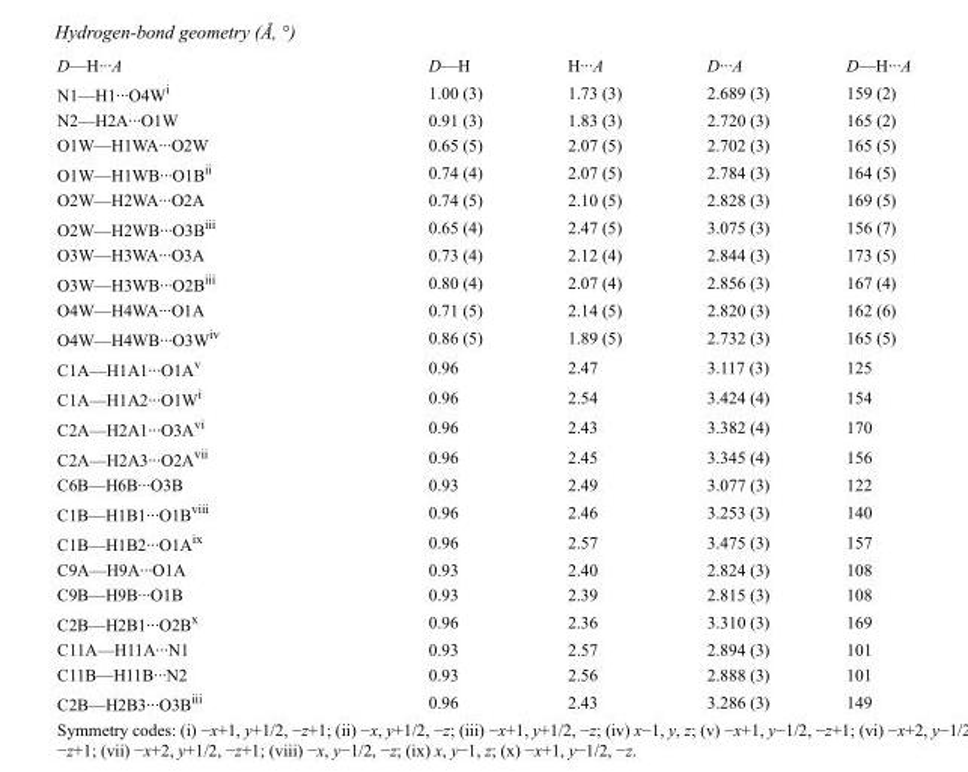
<table><tbody><tr><td>D—H···A</td><td>D—H</td><td>H···A</td><td>D···A</td><td>D—H···A</td></tr><tr><td>N1—H1···O4W<sup>i</sup></td><td>1.00 (3)</td><td>1.73 (3)</td><td>2.689 (3)</td><td>159 (2)</td></tr><tr><td>N2—H2A···O1W</td><td>0.91 (3)</td><td>1.83 (3)</td><td>2.720 (3)</td><td>165 (2)</td></tr><tr><td>O1W—H1WA···O2W</td><td>0.65 (5)</td><td>2.07 (5)</td><td>2.702 (3)</td><td>165 (5)</td></tr><tr><td>O1W—H1WB···O1B<sup>ii</sup></td><td>0.74 (4)</td><td>2.07 (5)</td><td>2.784 (3)</td><td>164 (5)</td></tr><tr><td>O2W—H2WA···O2A</td><td>0.74 (5)</td><td>2.10 (5)</td><td>2.828 (3)</td><td>169 (5)</td></tr><tr><td>O2W—H2WB···O3B<sup>iii</sup></td><td>0.65 (4)</td><td>2.47 (5)</td><td>3.075 (3)</td><td>156 (7)</td></tr><tr><td>O3W—H3WA···O3A</td><td>0.73 (4)</td><td>2.12 (4)</td><td>2.844 (3)</td><td>173 (5)</td></tr><tr><td>O3W—H3WB···O2B<sup>iii</sup></td><td>0.80 (4)</td><td>2.07 (4)</td><td>2.856 (3)</td><td>167 (4)</td></tr><tr><td>O4W—H4WA···O1A</td><td>0.71 (5)</td><td>2.14 (5)</td><td>2.820 (3)</td><td>162 (6)</td></tr><tr><td>O4W—H4WB···O3W<sup>iv</sup></td><td>0.86 (5)</td><td>1.89 (5)</td><td>2.732 (3)</td><td>165 (5)</td></tr><tr><td>C1A—H1A1···O1A<sup>v</sup></td><td>0.96</td><td>2.47</td><td>3.117 (3)</td><td>125</td></tr><tr><td>C1A—H1A2···O1W<sup>i</sup></td><td>0.96</td><td>2.54</td><td>3.424 (4)</td><td>154</td></tr><tr><td>C2A—H2A1···O3A<sup>vi</sup></td><td>0.96</td><td>2.43</td><td>3.382 (4)</td><td>170</td></tr><tr><td>C2A—H2A3···O2A<sup>vii</sup></td><td>0.96</td><td>2.45</td><td>3.345 (4)</td><td>156</td></tr><tr><td>C6B—H6B···O3B</td><td>0.93</td><td>2.49</td><td>3.077 (3)</td><td>122</td></tr><tr><td>C1B—H1B1···O1B<sup>viii</sup></td><td>0.96</td><td>2.46</td><td>3.253 (3)</td><td>140</td></tr><tr><td>C1B—H1B2···O1A<sup>ix</sup></td><td>0.96</td><td>2.57</td><td>3.475 (3)</td><td>157</td></tr><tr><td>C9A—H9A···O1A</td><td>0.93</td><td>2.40</td><td>2.824 (3)</td><td>108</td></tr><tr><td>C9B—H9B···O1B</td><td>0.93</td><td>2.39</td><td>2.815 (3)</td><td>108</td></tr><tr><td>C2B—H2B1···O2B<sup>x</sup></td><td>0.96</td><td>2.36</td><td>3.310 (3)</td><td>169</td></tr><tr><td>C11A—H11A···N1</td><td>0.93</td><td>2.57</td><td>2.894 (3)</td><td>101</td></tr><tr><td>C11B—H11B···N2</td><td>0.93</td><td>2.56</td><td>2.888 (3)</td><td>101</td></tr><tr><td>C2B—H2B3···O3B<sup>iii</sup></td><td>0.96</td><td>2.43</td><td>3.286 (3)</td><td>149</td></tr></tbody></table>